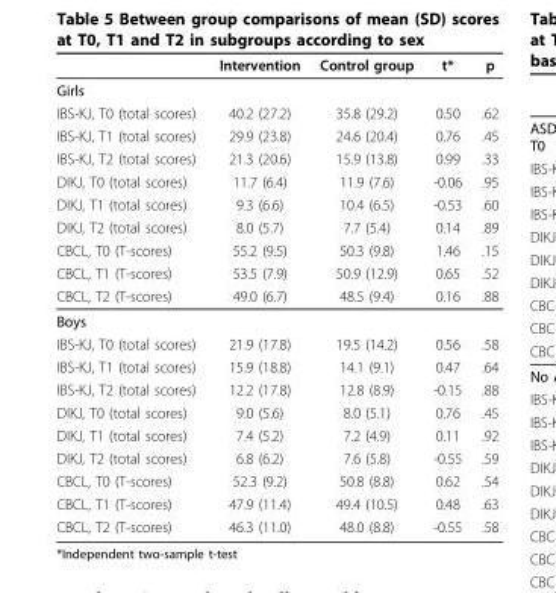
<table><thead><tr><td></td><td>Intervention</td><td>Control group</td><td>t*</td><td>p</td></tr></thead><tbody><tr><td colspan="5">Girls</td></tr><tr><td>IBS-KJ, T0 (total scores)</td><td>40.2 (27.2)</td><td>35.8 (29.2)</td><td>0.50</td><td>.62</td></tr><tr><td>IBS-KJ, T1 (total scores)</td><td>29.9 (23.8)</td><td>24.6 (20.4)</td><td>0.76</td><td>.45</td></tr><tr><td>IBS-KJ, T2 (total scores)</td><td>21.3 (20.6)</td><td>15.9 (13.8)</td><td>0.99</td><td>.33</td></tr><tr><td>DIKJ, T0 (total scores)</td><td>11.7 (6.4)</td><td>11.9 (7.6)</td><td>-0.06</td><td>.95</td></tr><tr><td>DIKJ, T1 (total scores)</td><td>9.3 (6.6)</td><td>10.4 (6.5)</td><td>-0.53</td><td>.60</td></tr><tr><td>DIKJ, T2 (total scores)</td><td>8.0 (5.7)</td><td>7.7 (5.4)</td><td>0.14</td><td>.89</td></tr><tr><td>CBCL, T0 (T-scores)</td><td>55.2 (9.5)</td><td>50.3 (9.8)</td><td>1.46</td><td>.15</td></tr><tr><td>CBCL, T1 (T-scores)</td><td>53.5 (7.9)</td><td>50.9 (12.9)</td><td>0.65</td><td>.52</td></tr><tr><td>CBCL, T2 (T-scores)</td><td>49.0 (6.7)</td><td>48.5 (9.4)</td><td>0.16</td><td>.88</td></tr><tr><td colspan="5">Boys</td></tr><tr><td>IBS-KJ, T0 (total scores)</td><td>21.9 (17.8)</td><td>19.5 (14.2)</td><td>0.56</td><td>.58</td></tr><tr><td>IBS-KJ, T1 (total scores)</td><td>15.9 (18.8)</td><td>14.1 (9.1)</td><td>0.47</td><td>.64</td></tr><tr><td>IBS-KJ, T2 (total scores)</td><td>12.2 (17.8)</td><td>12.8 (8.9)</td><td>-0.15</td><td>.88</td></tr><tr><td>DIKJ, T0 (total scores)</td><td>9.0 (5.6)</td><td>8.0 (5.1)</td><td>0.76</td><td>.45</td></tr><tr><td>DIKJ, T1 (total scores)</td><td>7.4 (5.2)</td><td>7.2 (4.9)</td><td>0.11</td><td>.92</td></tr><tr><td>DIKJ, T2 (total scores)</td><td>6.8 (6.2)</td><td>7.6 (5.8)</td><td>-0.55</td><td>.59</td></tr><tr><td>CBCL, T0 (T-scores)</td><td>52.3 (9.2)</td><td>50.8 (8.8)</td><td>0.62</td><td>.54</td></tr><tr><td>CBCL, T1 (T-scores)</td><td>47.9 (11.4)</td><td>49.4 (10.5)</td><td>0.48</td><td>.63</td></tr><tr><td>CBCL, T2 (T-scores)</td><td>46.3 (11.0)</td><td>48.0 (8.8)</td><td>-0.55</td><td>.58</td></tr></tbody></table>